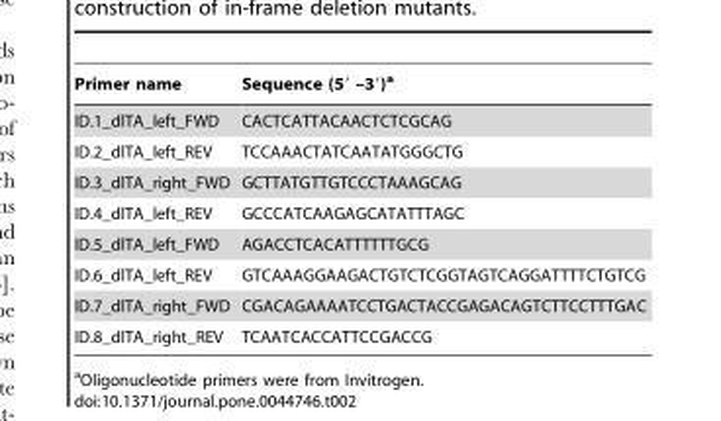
<table><thead><tr><td>Primer name</td><td>Sequence (5′ –3′)<sup>a</sup></td></tr></thead><tbody><tr><td>ID.1_dlTA_left_FWD</td><td>CACTCATTACAACTCTCGCAG</td></tr><tr><td>ID.2_dlTA_left_REV</td><td>TCCAAACTATCAATATGGGCTG</td></tr><tr><td>ID.3_dlTA_right_FWD</td><td>GCTTATGTTGTCCCTAAAGCAG</td></tr><tr><td>ID.4_dlTA_left_REV</td><td>GCCCATCAAGAGCATATTTAGC</td></tr><tr><td>ID.5_dlTA_left_FWD</td><td>AGACCTCACATTTTTTGCG</td></tr><tr><td>ID.6_dlTA_left_REV</td><td>GTCAAAGGAAGACTGTCTCGGTAGTCAGGATTTTCTGTCG</td></tr><tr><td>ID.7_dlTA_right_FWD</td><td>CGACAGAAAATCCTGACTACCGAGACAGTCTTCCTTTGAC</td></tr><tr><td>ID.8_dlTA_right_REV</td><td>TCAATCACCATTCCGACCG</td></tr></tbody></table>